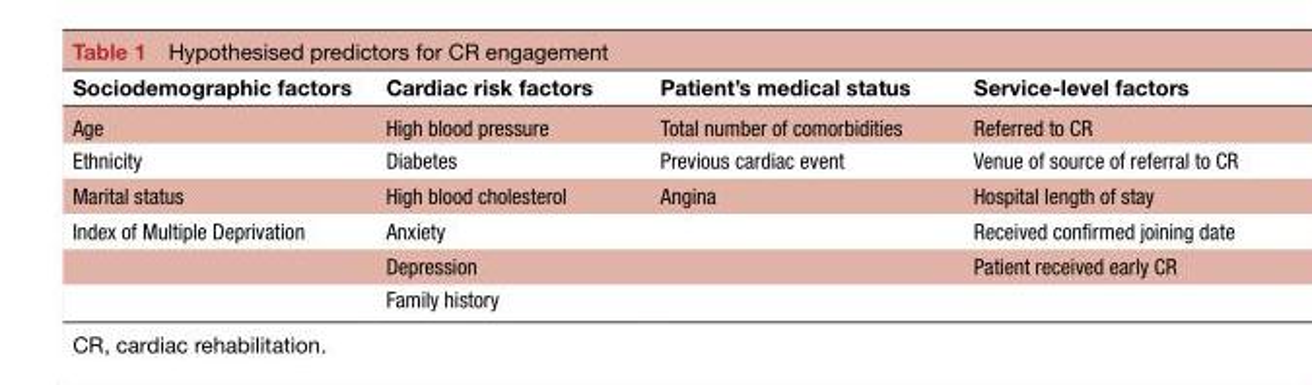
<table><thead><tr><td>Sociodemographic factors</td><td>Cardiac risk factors</td><td>Patient’s medical status</td><td>Service-level factors</td></tr></thead><tbody><tr><td>Age</td><td>High blood pressure</td><td>Total number of comorbidities</td><td>Referred to CR</td></tr><tr><td>Ethnicity</td><td>Diabetes</td><td>Previous cardiac event</td><td>Venue of source of referral to CR</td></tr><tr><td>Marital status</td><td>High blood cholesterol</td><td>Angina</td><td>Hospital length of stay</td></tr><tr><td rowspan="3">Index of Multiple Deprivation</td><td>Anxiety</td><td></td><td>Received confirmed joining date</td></tr><tr><td>Depression</td><td></td><td>Patient received early CR</td></tr><tr><td>Family history</td><td></td><td></td></tr></tbody></table>